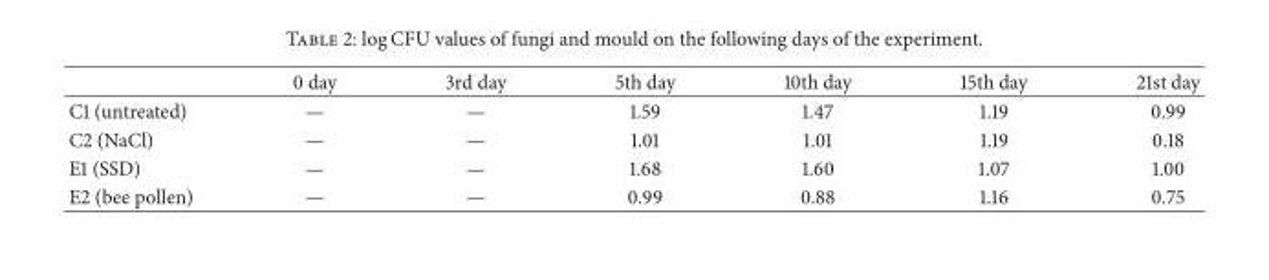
<table><thead><tr><td></td><td>0 day</td><td>3rd day</td><td>5th day</td><td>10th day</td><td>15th day</td><td>21st day</td></tr></thead><tbody><tr><td>C1 (untreated)</td><td>—</td><td>—</td><td>1.59</td><td>1.47</td><td>1.19</td><td>0.99</td></tr><tr><td>C2 (NaCl)</td><td>—</td><td>—</td><td>1.01</td><td>1.01</td><td>1.19</td><td>0.18</td></tr><tr><td>E1 (SSD)</td><td>—</td><td>—</td><td>1.68</td><td>1.60</td><td>1.07</td><td>1.00</td></tr><tr><td>E2 (bee pollen)</td><td>—</td><td>—</td><td>0.99</td><td>0.88</td><td>1.16</td><td>0.75</td></tr></tbody></table>